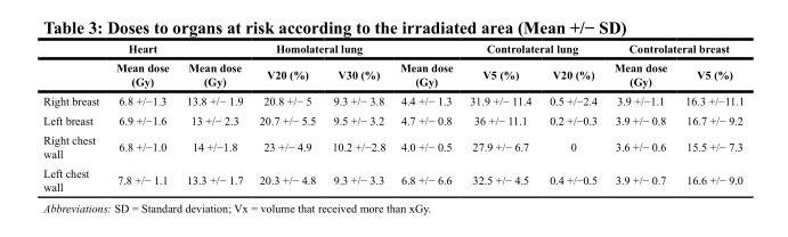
<table><thead><tr><td rowspan="2"></td><td rowspan="2">Heart Mean dose (Gy)</td><td colspan="4">Homolateral lung</td><td colspan="2">Controlateral lung</td><td colspan="2">Controlateral breast</td></tr><tr><td>Mean dose (Gy)</td><td>V20 (%)</td><td>V30 (%)</td><td>Mean dose (Gy)</td><td>V5 (%)</td><td>V20 (%)</td><td>Mean dose (Gy)</td><td>V5 (%)</td></tr></thead><tbody><tr><td>Right breast</td><td>6.8 +/−1.3</td><td>13.8 +/− 1.9</td><td>20.8 +/− 5</td><td>9.3 +/− 3.8</td><td>4.4 +/− 1.3</td><td>31.9 +/− 11.4</td><td>0.5 +/−2.4</td><td>3.9 +/−1.1</td><td>16.3 +/−11.1</td></tr><tr><td>Left breast</td><td>6.9 +/−1.6</td><td>13 +/− 2.3</td><td>20.7 +/− 5.5</td><td>9.5 +/− 3.2</td><td>4.7 +/− 0.8</td><td>36 +/− 11.1</td><td>0.2 +/−0.3</td><td>3.9 +/− 0.8</td><td>16.7 +/− 9.2</td></tr><tr><td>Right chest wall</td><td>6.8 +/−1.0</td><td>14 +/−1.8</td><td>23 +/− 4.9</td><td>10.2 +/−2.8</td><td>4.0 +/− 0.5</td><td>27.9 +/− 6.7</td><td>0</td><td>3.6 +/− 0.6</td><td>15.5 +/− 7.3</td></tr><tr><td>Left chest wall</td><td>7.8 +/− 1.1</td><td>13.3 +/− 1.7</td><td>20.3 +/− 4.8</td><td>9.3 +/− 3.3</td><td>6.8 +/− 6.6</td><td>32.5 +/− 4.5</td><td>0.4 +/−0.5</td><td>3.9 +/− 0.7</td><td>16.6 +/− 9.0</td></tr></tbody></table>